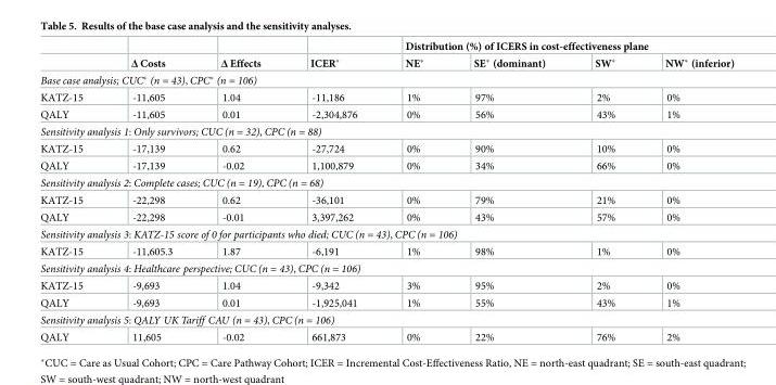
<table><thead><tr><td rowspan="2"></td><td rowspan="2">Δ Costs</td><td rowspan="2">Δ Effects</td><td rowspan="2">ICER*</td><td colspan="4">Distribution (%) of ICERS in cost-effectiveness plane</td></tr><tr><td>NE*</td><td>SE* (dominant)</td><td>SW*</td><td>NW* (inferior)</td></tr></thead><tbody><tr><td colspan="8">Base case analysis; CUC* (n = 43), CPC* (n = 106)</td></tr><tr><td>KATZ-15</td><td>-11,605</td><td>1.04</td><td>-11,186</td><td>1%</td><td>97%</td><td>2%</td><td>0%</td></tr><tr><td>QALY</td><td>-11,605</td><td>0.01</td><td>-2,304,876</td><td>0%</td><td>56%</td><td>43%</td><td>1%</td></tr><tr><td colspan="8">Sensitivity analysis 1: Only survivors; CUC (n = 32), CPC (n = 88)</td></tr><tr><td>KATZ-15</td><td>-17,139</td><td>0.62</td><td>-27,724</td><td>0%</td><td>90%</td><td>10%</td><td>0%</td></tr><tr><td>QALY</td><td>-17,139</td><td>-0.02</td><td>1,100,879</td><td>0%</td><td>34%</td><td>66%</td><td>0%</td></tr><tr><td colspan="8">Sensitivity analysis 2: Complete cases; CUC (n = 19), CPC (n = 68)</td></tr><tr><td>KATZ-15</td><td>-22,298</td><td>0.62</td><td>-36,101</td><td>0%</td><td>79%</td><td>21%</td><td>0%</td></tr><tr><td>QALY</td><td>-22,298</td><td>-0.01</td><td>3,397,262</td><td>0%</td><td>43%</td><td>57%</td><td>0%</td></tr><tr><td colspan="8">Sensitivity analysis 3: KATZ-15 score of 0 for participants who died; CUC (n = 43), CPC (n = 106)</td></tr><tr><td>KATZ-15</td><td>-11,605.3</td><td>1.87</td><td>-6,191</td><td>1%</td><td>98%</td><td>1%</td><td>0%</td></tr><tr><td colspan="8">Sensitivity analysis 4: Healthcare perspective; CUC (n = 43), CPC (n = 106)</td></tr><tr><td>KATZ-15</td><td>-9,693</td><td>1.04</td><td>-9,342</td><td>3%</td><td>95%</td><td>2%</td><td>0%</td></tr><tr><td>QALY</td><td>-9,693</td><td>0.01</td><td>-1,925,041</td><td>1%</td><td>55%</td><td>43%</td><td>1%</td></tr><tr><td colspan="8">Sensitivity analysis 5: QALY UK Tariff CAU (n = 43), CPC (n = 106)</td></tr><tr><td>QALY</td><td>11,605</td><td>-0.02</td><td>661,873</td><td>0%</td><td>22%</td><td>76%</td><td>2%</td></tr></tbody></table>